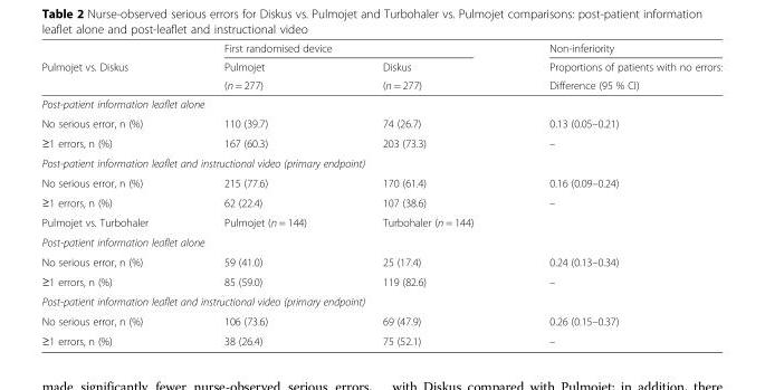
<table><thead><tr><td rowspan="3">Pulmojet vs. Diskus</td><td colspan="2">First randomised device</td><td rowspan="3">Non-inferiority Proportions of patients with no errors: Difference (95 % CI)</td></tr><tr><td rowspan="2">Pulmojet (n = 277)</td><td rowspan="2">Diskus (n = 277)</td></tr><tr></tr></thead><tbody><tr><td colspan="4">Post-patient information leaflet alone</td></tr><tr><td>No serious error, n (%)</td><td>110 (39.7)</td><td>74 (26.7)</td><td>0.13 (0.05–0.21)</td></tr><tr><td>≥1 errors, n (%)</td><td>167 (60.3)</td><td>203 (73.3)</td><td>–</td></tr><tr><td colspan="4">Post-patient information leaflet and instructional video (primary endpoint)</td></tr><tr><td>No serious error, n (%)</td><td>215 (77.6)</td><td>170 (61.4)</td><td>0.16 (0.09–0.24)</td></tr><tr><td>≥1 errors, n (%)</td><td>62 (22.4)</td><td>107 (38.6)</td><td>–</td></tr><tr><td>Pulmojet vs. Turbohaler</td><td>Pulmojet (n = 144)</td><td>Turbohaler (n = 144)</td><td></td></tr><tr><td colspan="4">Post-patient information leaflet alone</td></tr><tr><td>No serious error, n (%)</td><td>59 (41.0)</td><td>25 (17.4)</td><td>0.24 (0.13–0.34)</td></tr><tr><td>≥1 errors, n (%)</td><td>85 (59.0)</td><td>119 (82.6)</td><td>–</td></tr><tr><td colspan="4">Post-patient information leaflet and instructional video (primary endpoint)</td></tr><tr><td>No serious error, n (%)</td><td>106 (73.6)</td><td>69 (47.9)</td><td>0.26 (0.15–0.37)</td></tr><tr><td>≥1 errors, n (%)</td><td>38 (26.4)</td><td>75 (52.1)</td><td>–</td></tr></tbody></table>